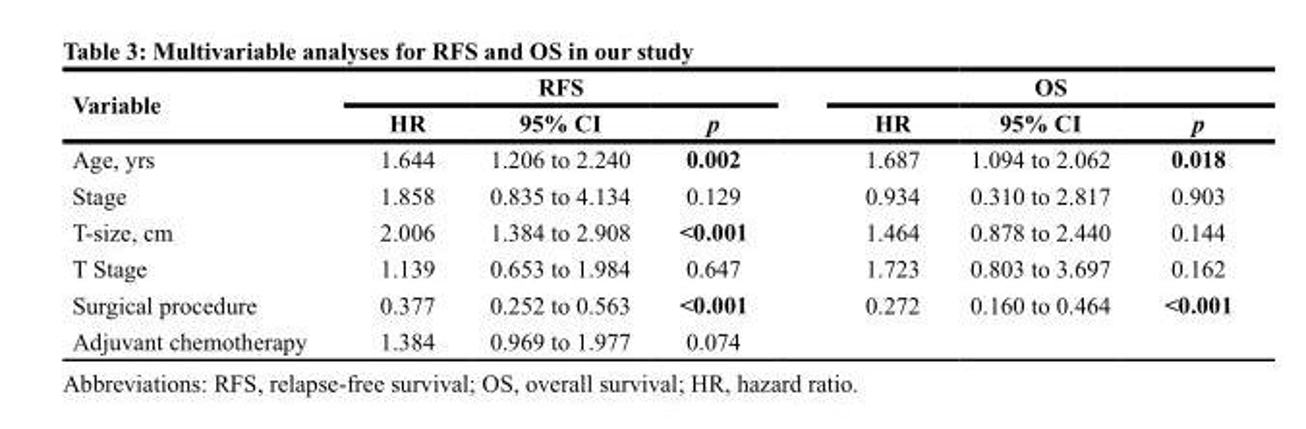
<table><thead><tr><td rowspan="2">Variable</td><td colspan="3">RFS</td><td colspan="3">OS</td></tr><tr><td>HR</td><td>95% CI</td><td>p</td><td>HR</td><td>95% CI</td><td>p</td></tr></thead><tbody><tr><td>Age, yrs</td><td>1.644</td><td>1.206 to 2.240</td><td>0.002</td><td>1.687</td><td>1.094 to 2.062</td><td>0.018</td></tr><tr><td>Stage</td><td>1.858</td><td>0.835 to 4.134</td><td>0.129</td><td>0.934</td><td>0.310 to 2.817</td><td>0.903</td></tr><tr><td>T-size, cm</td><td>2.006</td><td>1.384 to 2.908</td><td>&lt;0.001</td><td>1.464</td><td>0.878 to 2.440</td><td>0.144</td></tr><tr><td>T Stage</td><td>1.139</td><td>0.653 to 1.984</td><td>0.647</td><td>1.723</td><td>0.803 to 3.697</td><td>0.162</td></tr><tr><td>Surgical procedure</td><td>0.377</td><td>0.252 to 0.563</td><td>&lt;0.001</td><td>0.272</td><td>0.160 to 0.464</td><td>&lt;0.001</td></tr><tr><td>Adjuvant chemotherapy</td><td>1.384</td><td>0.969 to 1.977</td><td>0.074</td><td></td><td></td><td></td></tr></tbody></table>